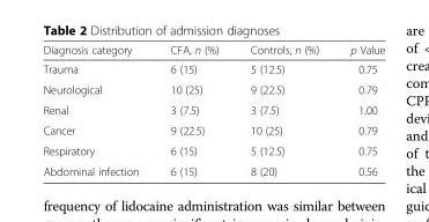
<table><thead><tr><td>Diagnosis category</td><td>CFA, n (%)</td><td>Controls, n (%)</td><td>p Value</td></tr></thead><tbody><tr><td>Trauma</td><td>6 (15)</td><td>5 (12.5)</td><td>0.75</td></tr><tr><td>Neurological</td><td>10 (25)</td><td>9 (22.5)</td><td>0.79</td></tr><tr><td>Renal</td><td>3 (7.5)</td><td>3 (7.5)</td><td>1.00</td></tr><tr><td>Cancer</td><td>9 (22.5)</td><td>10 (25)</td><td>0.79</td></tr><tr><td>Respiratory</td><td>6 (15)</td><td>5 (12.5)</td><td>0.75</td></tr><tr><td>Abdominal infection</td><td>6 (15)</td><td>8 (20)</td><td>0.56</td></tr></tbody></table>